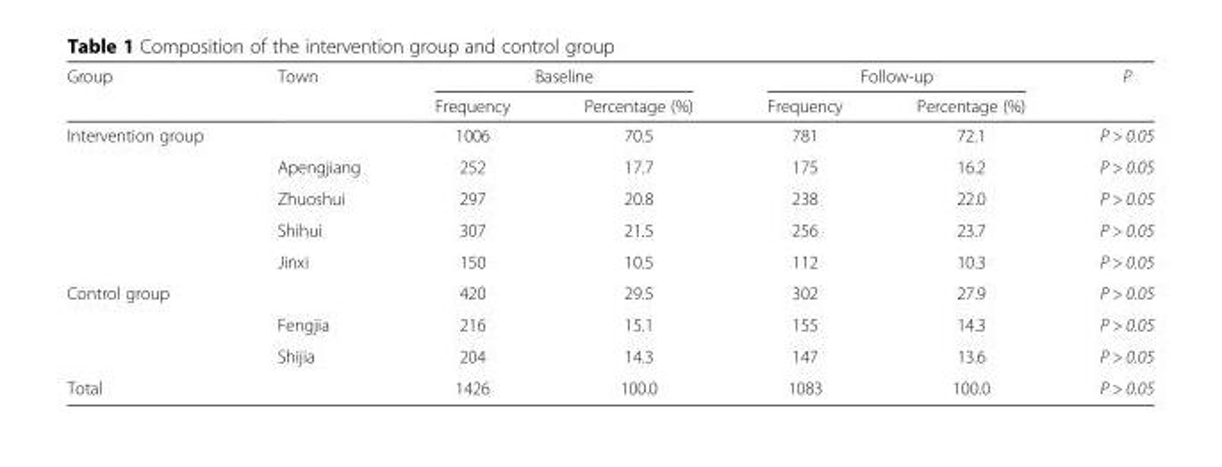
<table><thead><tr><td rowspan="2">Group</td><td rowspan="2">Town</td><td colspan="2">Baseline</td><td colspan="2">Follow-up</td><td rowspan="2">P</td></tr><tr><td>Frequency</td><td>Percentage (%)</td><td>Frequency</td><td>Percentage (%)</td></tr></thead><tbody><tr><td rowspan="5">Intervention group</td><td></td><td>1006</td><td>70.5</td><td>781</td><td>72.1</td><td>P &gt; 0.05</td></tr><tr><td>Apengjiang</td><td>252</td><td>17.7</td><td>175</td><td>16.2</td><td>P &gt; 0.05</td></tr><tr><td>Zhuoshui</td><td>297</td><td>20.8</td><td>238</td><td>22.0</td><td>P &gt; 0.05</td></tr><tr><td>Shihui</td><td>307</td><td>21.5</td><td>256</td><td>23.7</td><td>P &gt; 0.05</td></tr><tr><td>Jinxi</td><td>150</td><td>10.5</td><td>112</td><td>10.3</td><td>P &gt; 0.05</td></tr><tr><td rowspan="3">Control group</td><td></td><td>420</td><td>29.5</td><td>302</td><td>27.9</td><td>P &gt; 0.05</td></tr><tr><td>Fengjia</td><td>216</td><td>15.1</td><td>155</td><td>14.3</td><td>P &gt; 0.05</td></tr><tr><td>Shijia</td><td>204</td><td>14.3</td><td>147</td><td>13.6</td><td>P &gt; 0.05</td></tr><tr><td>Total</td><td></td><td>1426</td><td>100.0</td><td>1083</td><td>100.0</td><td>P &gt; 0.05</td></tr></tbody></table>